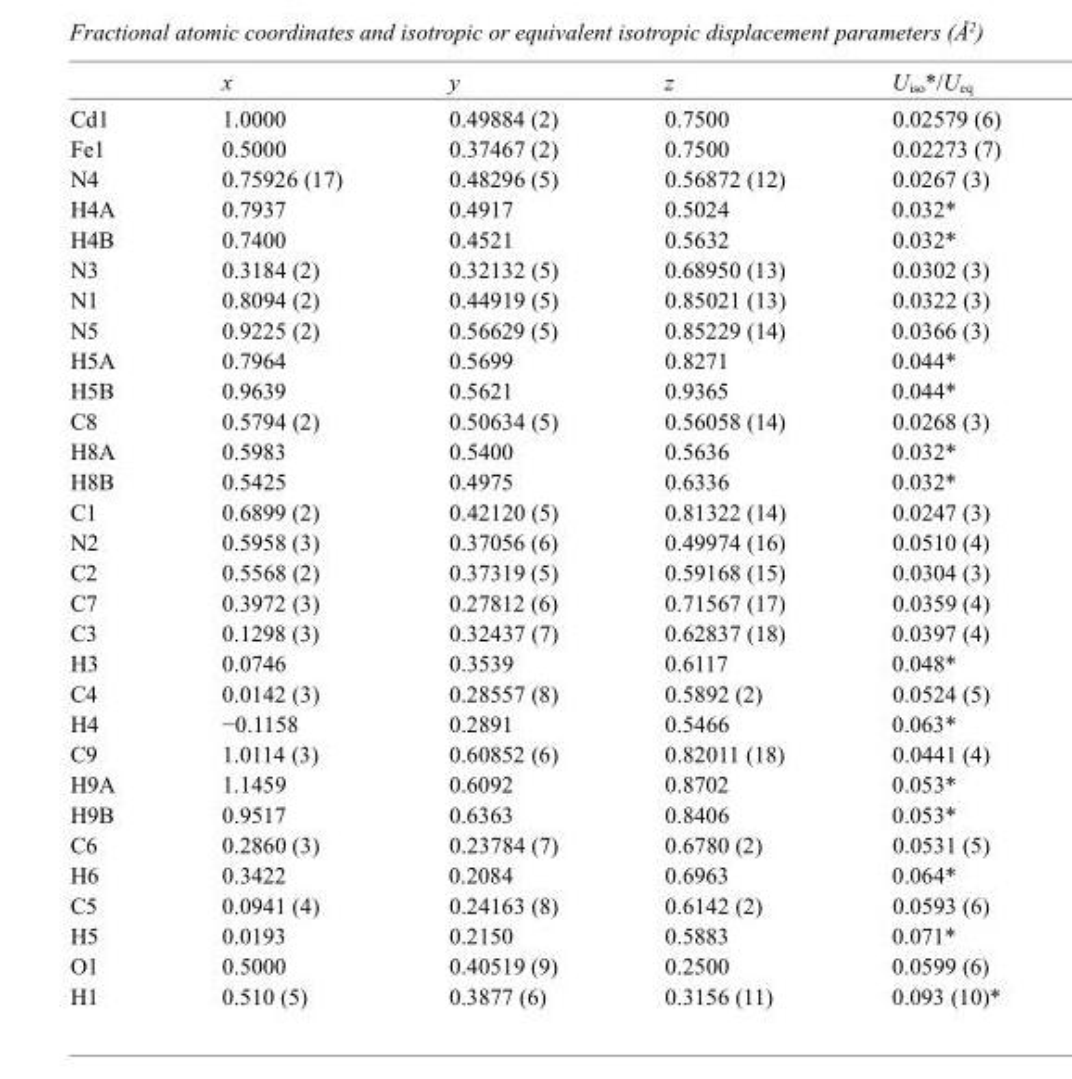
<table><thead><tr><td></td><td>x</td><td>y</td><td>z</td><td>U<sub>iso</sub>*/U<sub>eq</sub></td></tr></thead><tbody><tr><td>Cd1</td><td>1.0000</td><td>0.49884 (2)</td><td>0.7500</td><td>0.02579 (6)</td></tr><tr><td>Fe1</td><td>0.5000</td><td>0.37467 (2)</td><td>0.7500</td><td>0.02273 (7)</td></tr><tr><td>N4</td><td>0.75926 (17)</td><td>0.48296 (5)</td><td>0.56872 (12)</td><td>0.0267 (3)</td></tr><tr><td>H4A</td><td>0.7937</td><td>0.4917</td><td>0.5024</td><td>0.032*</td></tr><tr><td>H4B</td><td>0.7400</td><td>0.4521</td><td>0.5632</td><td>0.032*</td></tr><tr><td>N3</td><td>0.3184 (2)</td><td>0.32132 (5)</td><td>0.68950 (13)</td><td>0.0302 (3)</td></tr><tr><td>N1</td><td>0.8094 (2)</td><td>0.44919 (5)</td><td>0.85021 (13)</td><td>0.0322 (3)</td></tr><tr><td>N5</td><td>0.9225 (2)</td><td>0.56629 (5)</td><td>0.85229 (14)</td><td>0.0366 (3)</td></tr><tr><td>H5A</td><td>0.7964</td><td>0.5699</td><td>0.8271</td><td>0.044*</td></tr><tr><td>H5B</td><td>0.9639</td><td>0.5621</td><td>0.9365</td><td>0.044*</td></tr><tr><td>C8</td><td>0.5794 (2)</td><td>0.50634 (5)</td><td>0.56058 (14)</td><td>0.0268 (3)</td></tr><tr><td>H8A</td><td>0.5983</td><td>0.5400</td><td>0.5636</td><td>0.032*</td></tr><tr><td>H8B</td><td>0.5425</td><td>0.4975</td><td>0.6336</td><td>0.032*</td></tr><tr><td>C1</td><td>0.6899 (2)</td><td>0.42120 (5)</td><td>0.81322 (14)</td><td>0.0247 (3)</td></tr><tr><td>N2</td><td>0.5958 (3)</td><td>0.37056 (6)</td><td>0.49974 (16)</td><td>0.0510 (4)</td></tr><tr><td>C2</td><td>0.5568 (2)</td><td>0.37319 (5)</td><td>0.59168 (15)</td><td>0.0304 (3)</td></tr><tr><td>C7</td><td>0.3972 (3)</td><td>0.27812 (6)</td><td>0.71567 (17)</td><td>0.0359 (4)</td></tr><tr><td>C3</td><td>0.1298 (3)</td><td>0.32437 (7)</td><td>0.62837 (18)</td><td>0.0397 (4)</td></tr><tr><td>H3</td><td>0.0746</td><td>0.3539</td><td>0.6117</td><td>0.048*</td></tr><tr><td>C4</td><td>0.0142 (3)</td><td>0.28557 (8)</td><td>0.5892 (2)</td><td>0.0524 (5)</td></tr><tr><td>H4</td><td>−0.1158</td><td>0.2891</td><td>0.5466</td><td>0.063*</td></tr><tr><td>C9</td><td>1.0114 (3)</td><td>0.60852 (6)</td><td>0.82011 (18)</td><td>0.0441 (4)</td></tr><tr><td>H9A</td><td>1.1459</td><td>0.6092</td><td>0.8702</td><td>0.053*</td></tr><tr><td>H9B</td><td>0.9517</td><td>0.6363</td><td>0.8406</td><td>0.053*</td></tr><tr><td>C6</td><td>0.2860 (3)</td><td>0.23784 (7)</td><td>0.6780 (2)</td><td>0.0531 (5)</td></tr><tr><td>H6</td><td>0.3422</td><td>0.2084</td><td>0.6963</td><td>0.064*</td></tr><tr><td>C5</td><td>0.0941 (4)</td><td>0.24163 (8)</td><td>0.6142 (2)</td><td>0.0593 (6)</td></tr><tr><td>H5</td><td>0.0193</td><td>0.2150</td><td>0.5883</td><td>0.071*</td></tr><tr><td>O1</td><td>0.5000</td><td>0.40519 (9)</td><td>0.2500</td><td>0.0599 (6)</td></tr><tr><td>H1</td><td>0.510 (5)</td><td>0.3877 (6)</td><td>0.3156 (11)</td><td>0.093 (10)*</td></tr></tbody></table>